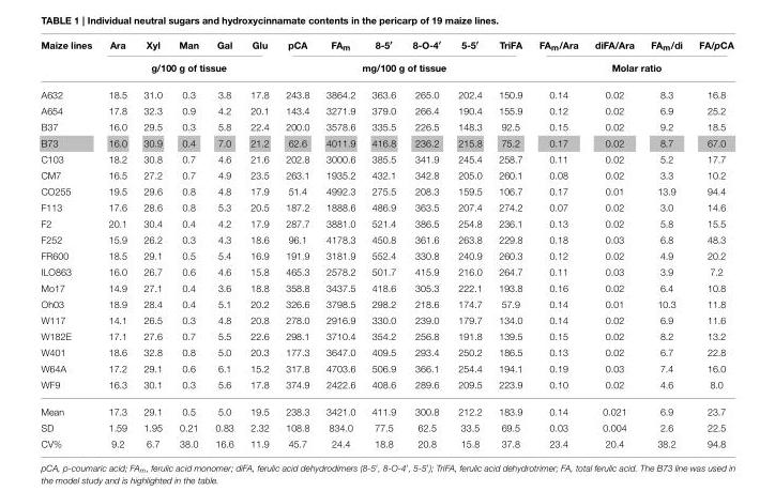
<table><thead><tr><td rowspan="2">Maize lines</td><td>Ara</td><td>Xyl</td><td>Man</td><td>Gal</td><td>Glu</td><td>pCA</td><td>FA<sub>m</sub></td><td>8-5′</td><td>8-O-4′</td><td>5-5′</td><td>TriFA</td><td>FA<sub>m</sub>/Ara</td><td>diFA/Ara</td><td>FA<sub>m</sub>/di</td><td>FA/pCA</td></tr><tr><td colspan="5">g/100 g of tissue</td><td colspan="6">mg/100 g of tissue</td><td colspan="4">Molar ratio</td></tr></thead><tbody><tr><td>A632</td><td>18.5</td><td>31.0</td><td>0.3</td><td>3.8</td><td>17.8</td><td>243.8</td><td>3864.2</td><td>363.6</td><td>265.0</td><td>202.4</td><td>150.9</td><td>0.14</td><td>0.02</td><td>8.3</td><td>16.8</td></tr><tr><td>A654</td><td>17.8</td><td>32.3</td><td>0.9</td><td>4.2</td><td>20.1</td><td>143.4</td><td>3271.9</td><td>379.0</td><td>266.4</td><td>190.4</td><td>155.9</td><td>0.12</td><td>0.02</td><td>6.9</td><td>25.2</td></tr><tr><td>B37</td><td>16.0</td><td>29.5</td><td>0.3</td><td>5.8</td><td>22.4</td><td>200.0</td><td>3578.6</td><td>335.5</td><td>226.5</td><td>148.3</td><td>92.5</td><td>0.15</td><td>0.02</td><td>9.2</td><td>18.5</td></tr><tr><td>B73</td><td>16.0</td><td>30.9</td><td>0.4</td><td>7.0</td><td>21.2</td><td>62.6</td><td>4011.9</td><td>416.8</td><td>236.2</td><td>215.8</td><td>75.2</td><td>0.17</td><td>0.02</td><td>8.7</td><td>67.0</td></tr><tr><td>C103</td><td>18.2</td><td>30.8</td><td>0.7</td><td>4.6</td><td>21.6</td><td>202.8</td><td>3000.6</td><td>385.5</td><td>341.9</td><td>245.4</td><td>258.7</td><td>0.11</td><td>0.02</td><td>5.2</td><td>17.7</td></tr><tr><td>CM7</td><td>16.5</td><td>27.2</td><td>0.7</td><td>4.9</td><td>23.5</td><td>263.1</td><td>1935.2</td><td>432.1</td><td>342.8</td><td>205.0</td><td>260.1</td><td>0.08</td><td>0.02</td><td>3.3</td><td>10.2</td></tr><tr><td>CO255</td><td>19.5</td><td>29.6</td><td>0.8</td><td>4.8</td><td>17.9</td><td>51.4</td><td>4992.3</td><td>275.5</td><td>208.3</td><td>159.5</td><td>106.7</td><td>0.17</td><td>0.01</td><td>13.9</td><td>94.4</td></tr><tr><td>F113</td><td>17.6</td><td>28.6</td><td>0.8</td><td>5.3</td><td>20.5</td><td>187.2</td><td>1888.6</td><td>486.9</td><td>363.5</td><td>207.4</td><td>274.2</td><td>0.07</td><td>0.02</td><td>3.0</td><td>14.6</td></tr><tr><td>F2</td><td>20.1</td><td>30.4</td><td>0.4</td><td>4.2</td><td>17.9</td><td>287.7</td><td>3881.0</td><td>521.4</td><td>386.5</td><td>254.8</td><td>236.1</td><td>0.13</td><td>0.02</td><td>5.8</td><td>15.5</td></tr><tr><td>F252</td><td>15.9</td><td>26.2</td><td>0.3</td><td>4.3</td><td>18.6</td><td>96.1</td><td>4178.3</td><td>450.8</td><td>361.6</td><td>263.8</td><td>229.8</td><td>0.18</td><td>0.03</td><td>6.8</td><td>48.3</td></tr><tr><td>FR600</td><td>18.5</td><td>29.1</td><td>0.5</td><td>5.4</td><td>16.9</td><td>191.9</td><td>3181.9</td><td>552.4</td><td>330.8</td><td>240.9</td><td>260.3</td><td>0.12</td><td>0.02</td><td>4.9</td><td>20.2</td></tr><tr><td>ILO863</td><td>16.0</td><td>26.7</td><td>0.6</td><td>4.6</td><td>15.8</td><td>465.3</td><td>2578.2</td><td>501.7</td><td>415.9</td><td>216.0</td><td>264.7</td><td>0.11</td><td>0.03</td><td>3.9</td><td>7.2</td></tr><tr><td>Mo17</td><td>14.9</td><td>27.1</td><td>0.4</td><td>3.6</td><td>18.8</td><td>358.8</td><td>3437.5</td><td>418.6</td><td>305.3</td><td>222.1</td><td>193.8</td><td>0.16</td><td>0.02</td><td>6.4</td><td>10.8</td></tr><tr><td>Oh03</td><td>18.9</td><td>28.4</td><td>0.4</td><td>5.1</td><td>20.2</td><td>326.6</td><td>3798.5</td><td>298.2</td><td>218.6</td><td>174.7</td><td>57.9</td><td>0.14</td><td>0.01</td><td>10.3</td><td>11.8</td></tr><tr><td>W117</td><td>14.1</td><td>26.5</td><td>0.3</td><td>4.8</td><td>20.8</td><td>278.0</td><td>2916.9</td><td>330.0</td><td>239.0</td><td>179.7</td><td>134.0</td><td>0.14</td><td>0.02</td><td>6.9</td><td>11.6</td></tr><tr><td>W182E</td><td>17.1</td><td>27.6</td><td>0.7</td><td>5.5</td><td>22.6</td><td>298.1</td><td>3710.4</td><td>354.2</td><td>256.8</td><td>191.8</td><td>139.5</td><td>0.15</td><td>0.02</td><td>8.2</td><td>13.2</td></tr><tr><td>W401</td><td>18.6</td><td>32.8</td><td>0.8</td><td>5.0</td><td>20.3</td><td>177.3</td><td>3647.0</td><td>409.5</td><td>293.4</td><td>250.2</td><td>186.5</td><td>0.13</td><td>0.02</td><td>6.7</td><td>22.8</td></tr><tr><td>W64A</td><td>17.2</td><td>29.1</td><td>0.6</td><td>6.1</td><td>15.2</td><td>317.8</td><td>4703.6</td><td>506.9</td><td>366.1</td><td>254.4</td><td>194.1</td><td>0.19</td><td>0.03</td><td>7.4</td><td>16.0</td></tr><tr><td>WF9</td><td>16.3</td><td>30.1</td><td>0.3</td><td>5.6</td><td>17.8</td><td>374.9</td><td>2422.6</td><td>408.6</td><td>289.6</td><td>209.5</td><td>223.9</td><td>0.10</td><td>0.02</td><td>4.6</td><td>8.0</td></tr><tr><td>Mean</td><td>17.3</td><td>29.1</td><td>0.5</td><td>5.0</td><td>19.5</td><td>238.3</td><td>3421.0</td><td>411.9</td><td>300.8</td><td>212.2</td><td>183.9</td><td>0.14</td><td>0.021</td><td>6.9</td><td>23.7</td></tr><tr><td>SD</td><td>1.59</td><td>1.95</td><td>0.21</td><td>0.83</td><td>2.32</td><td>108.8</td><td>834.0</td><td>77.5</td><td>62.5</td><td>33.5</td><td>69.5</td><td>0.03</td><td>0.004</td><td>2.6</td><td>22.5</td></tr><tr><td>CV%</td><td>9.2</td><td>6.7</td><td>38.0</td><td>16.6</td><td>11.9</td><td>45.7</td><td>24.4</td><td>18.8</td><td>20.8</td><td>15.8</td><td>37.8</td><td>23.4</td><td>20.4</td><td>38.2</td><td>94.8</td></tr></tbody></table>